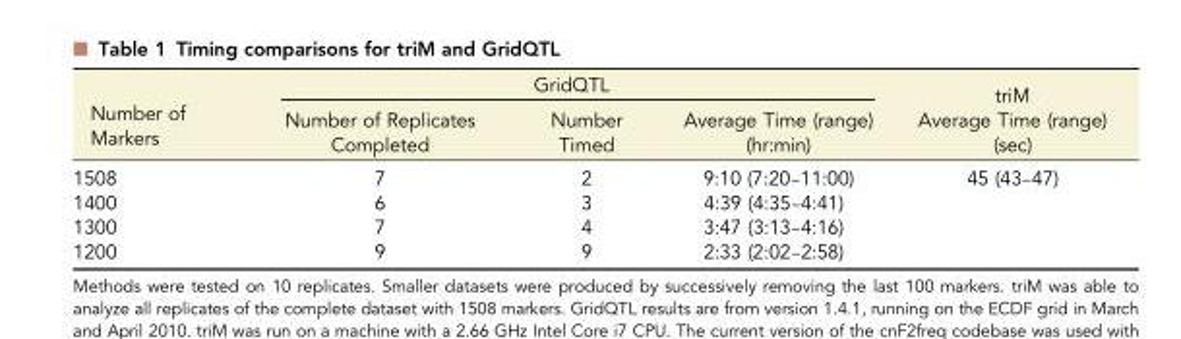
<table><thead><tr><td rowspan="2">Number of Markers</td><td colspan="3">GridQTL</td><td rowspan="2">triM Average Time (range) (sec)</td></tr><tr><td>Number of Replicates Completed</td><td>Number Timed</td><td>Average Time (range) (hr:min)</td></tr></thead><tbody><tr><td>1508</td><td>7</td><td>2</td><td>9:10 (7:20–11:00)</td><td>45 (43–47)</td></tr><tr><td>1400</td><td>6</td><td>3</td><td>4:39 (4:35–4:41)</td><td></td></tr><tr><td>1300</td><td>7</td><td>4</td><td>3:47 (3:13–4:16)</td><td></td></tr><tr><td>1200</td><td>9</td><td>9</td><td>2:33 (2:02–2:58)</td><td></td></tr></tbody></table>